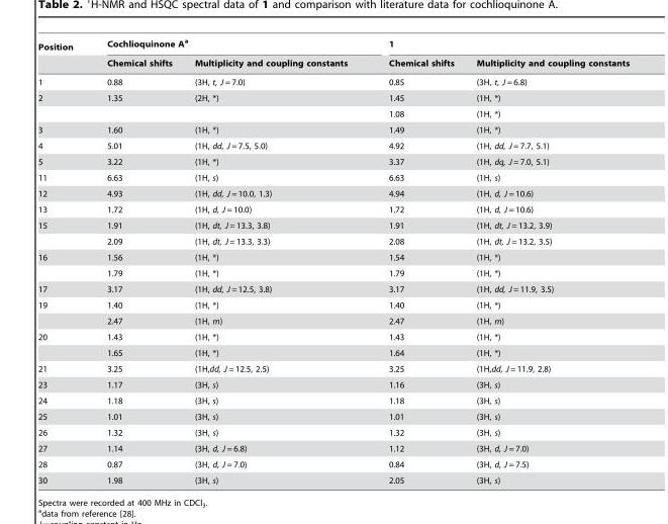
<table><thead><tr><td rowspan="2">Position</td><td colspan="2">Cochlioquinone A<sup>a</sup></td><td colspan="2">1</td></tr><tr><td>Chemical shifts</td><td>Multiplicity and coupling constants</td><td>Chemical shifts</td><td>Multiplicity and coupling constants</td></tr></thead><tbody><tr><td>1</td><td>0.88</td><td>(3H, t, J = 7.0)</td><td>0.85</td><td>(3H, t, J = 6.8)</td></tr><tr><td rowspan="2">2</td><td>1.35</td><td>(2H, *)</td><td>1.45</td><td>(1H, *)</td></tr><tr><td></td><td></td><td>1.08</td><td>(1H, *)</td></tr><tr><td>3</td><td>1.60</td><td>(1H, *)</td><td>1.49</td><td>(1H, *)</td></tr><tr><td>4</td><td>5.01</td><td>(1H, dd, J = 7.5, 5.0)</td><td>4.92</td><td>(1H, dd, J = 7.7, 5.1)</td></tr><tr><td>5</td><td>3.22</td><td>(1H, *)</td><td>3.37</td><td>(1H, dq, J = 7.0, 5.1)</td></tr><tr><td>11</td><td>6.63</td><td>(1H, s)</td><td>6.63</td><td>(1H, s)</td></tr><tr><td>12</td><td>4.93</td><td>(1H, dd, J = 10.0, 1.3)</td><td>4.94</td><td>(1H, d, J = 10.6)</td></tr><tr><td>13</td><td>1.72</td><td>(1H, d, J = 10.0)</td><td>1.72</td><td>(1H, d, J = 10.6)</td></tr><tr><td rowspan="2">15</td><td>1.91</td><td>(1H, dt, J = 13.3, 3.8)</td><td>1.91</td><td>(1H, dt, J = 13.2, 3.9)</td></tr><tr><td>2.09</td><td>(1H, dt, J = 13.3, 3.3)</td><td>2.08</td><td>(1H, dt, J = 13.2, 3.5)</td></tr><tr><td rowspan="2">16</td><td>1.56</td><td>(1H, *)</td><td>1.54</td><td>(1H, *)</td></tr><tr><td>1.79</td><td>(1H, *)</td><td>1.79</td><td>(1H, *)</td></tr><tr><td>17</td><td>3.17</td><td>(1H, dd, J = 12.5, 3.8)</td><td>3.17</td><td>(1H, dd, J = 11.9, 3.5)</td></tr><tr><td rowspan="2">19</td><td>1.40</td><td>(1H, *)</td><td>1.40</td><td>(1H, *)</td></tr><tr><td>2.47</td><td>(1H, m)</td><td>2.47</td><td>(1H, m)</td></tr><tr><td rowspan="2">20</td><td>1.43</td><td>(1H, *)</td><td>1.43</td><td>(1H, *)</td></tr><tr><td>1.65</td><td>(1H, *)</td><td>1.64</td><td>(1H, *)</td></tr><tr><td>21</td><td>3.25</td><td>(1H,dd, J = 12.5, 2.5)</td><td>3.25</td><td>(1H,dd, J = 11.9, 2.8)</td></tr><tr><td>23</td><td>1.17</td><td>(3H, s)</td><td>1.16</td><td>(3H, s)</td></tr><tr><td>24</td><td>1.18</td><td>(3H, s)</td><td>1.18</td><td>(3H, s)</td></tr><tr><td>25</td><td>1.01</td><td>(3H, s)</td><td>1.01</td><td>(3H, s)</td></tr><tr><td>26</td><td>1.32</td><td>(3H, s)</td><td>1.32</td><td>(3H, s)</td></tr><tr><td>27</td><td>1.14</td><td>(3H, d, J = 6.8)</td><td>1.12</td><td>(3H, d, J = 7.0)</td></tr><tr><td>28</td><td>0.87</td><td>(3H, d, J = 7.0)</td><td>0.84</td><td>(3H, d, J = 7.5)</td></tr><tr><td>30</td><td>1.98</td><td>(3H, s)</td><td>2.05</td><td>(3H, s)</td></tr></tbody></table>